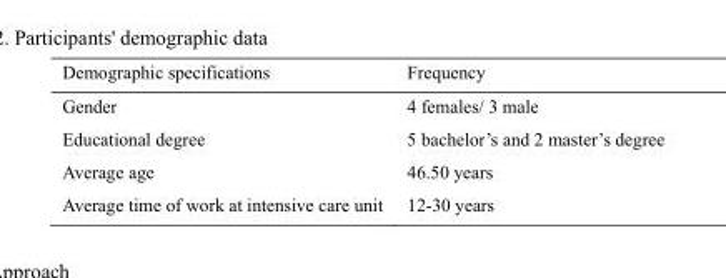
<table><thead><tr><td>Demographic specifications</td><td>Frequency</td></tr></thead><tbody><tr><td>Gender</td><td>4 females/ 3 male</td></tr><tr><td>Educational degree</td><td>5 bachelor’s and 2 master’s degree</td></tr><tr><td>Average age</td><td>46.50 years</td></tr><tr><td>Average time of work at intensive care unit</td><td>12-30 years</td></tr></tbody></table>